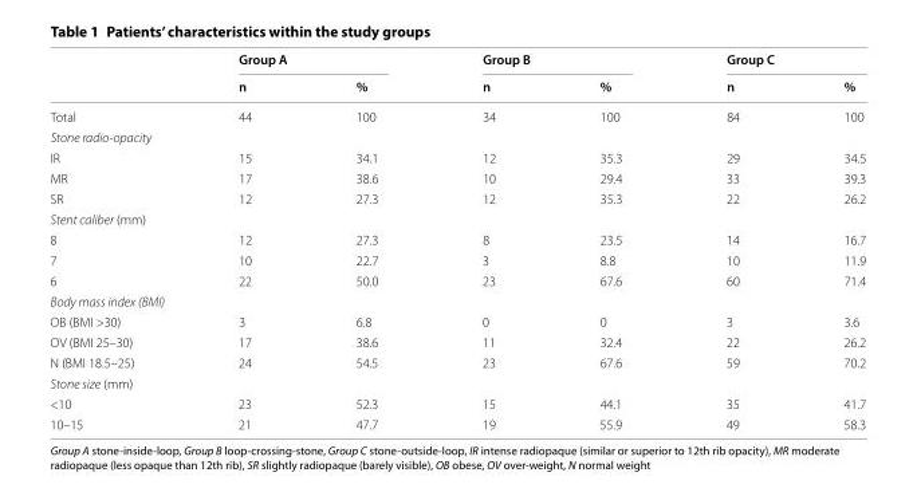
<table><thead><tr><td rowspan="2"></td><td colspan="2">Group A</td><td colspan="2">Group B</td><td colspan="2">Group C</td></tr><tr><td>n</td><td>%</td><td>n</td><td>%</td><td>n</td><td>%</td></tr></thead><tbody><tr><td>Total</td><td>44</td><td>100</td><td>34</td><td>100</td><td>84</td><td>100</td></tr><tr><td colspan="7">Stone radio‑opacity</td></tr><tr><td>IR</td><td>15</td><td>34.1</td><td>12</td><td>35.3</td><td>29</td><td>34.5</td></tr><tr><td>MR</td><td>17</td><td>38.6</td><td>10</td><td>29.4</td><td>33</td><td>39.3</td></tr><tr><td>SR</td><td>12</td><td>27.3</td><td>12</td><td>35.3</td><td>22</td><td>26.2</td></tr><tr><td colspan="7">Stent caliber (mm)</td></tr><tr><td>8</td><td>12</td><td>27.3</td><td>8</td><td>23.5</td><td>14</td><td>16.7</td></tr><tr><td>7</td><td>10</td><td>22.7</td><td>3</td><td>8.8</td><td>10</td><td>11.9</td></tr><tr><td>6</td><td>22</td><td>50.0</td><td>23</td><td>67.6</td><td>60</td><td>71.4</td></tr><tr><td colspan="7">Body mass index (BMI)</td></tr><tr><td>OB (BMI &gt;30)</td><td>3</td><td>6.8</td><td>0</td><td>0</td><td>3</td><td>3.6</td></tr><tr><td>OV (BMI 25–30)</td><td>17</td><td>38.6</td><td>11</td><td>32.4</td><td>22</td><td>26.2</td></tr><tr><td>N (BMI 18.5–25)</td><td>24</td><td>54.5</td><td>23</td><td>67.6</td><td>59</td><td>70.2</td></tr><tr><td colspan="7">Stone size (mm)</td></tr><tr><td>&lt;10</td><td>23</td><td>52.3</td><td>15</td><td>44.1</td><td>35</td><td>41.7</td></tr><tr><td>10–15</td><td>21</td><td>47.7</td><td>19</td><td>55.9</td><td>49</td><td>58.3</td></tr></tbody></table>